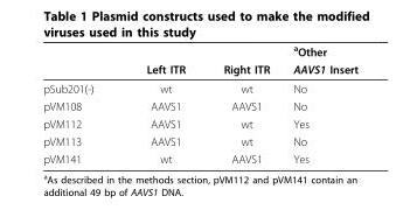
<table><thead><tr><td rowspan="2"></td><td rowspan="2">Left ITR</td><td rowspan="2">Right ITR</td><td rowspan="2"><sup>a</sup>Other AAVS1 Insert</td></tr><tr></tr></thead><tbody><tr><td>pSub201(-)</td><td>wt</td><td>wt</td><td>No</td></tr><tr><td>pVM108</td><td>AAVS1</td><td>AAVS1</td><td>No</td></tr><tr><td>pVM112</td><td>AAVS1</td><td>wt</td><td>Yes</td></tr><tr><td>pVM113</td><td>AAVS1</td><td>wt</td><td>No</td></tr><tr><td>pVM141</td><td>wt</td><td>AAVS1</td><td>Yes</td></tr></tbody></table>